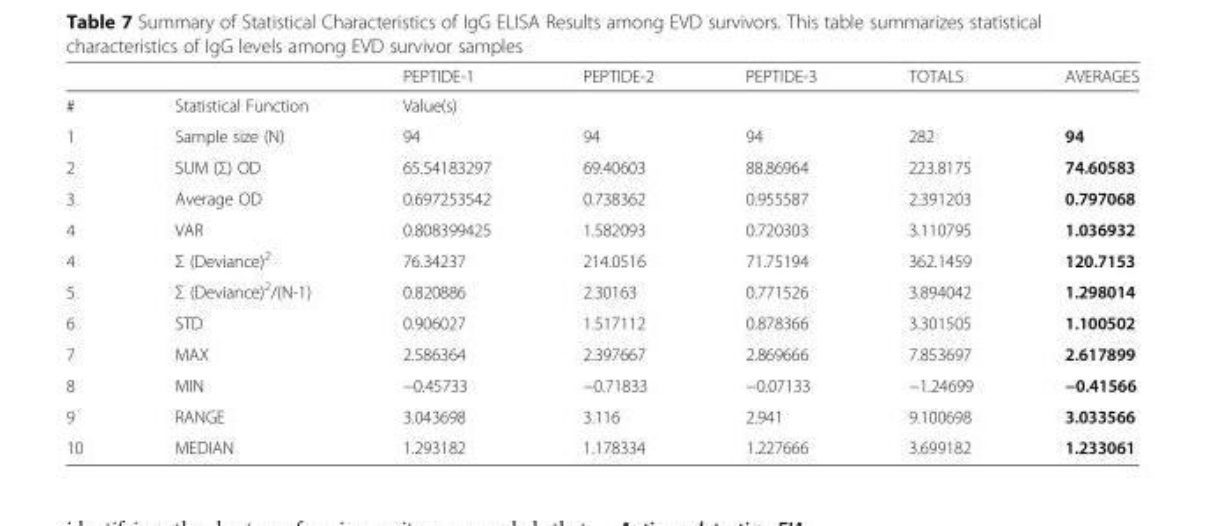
<table><thead><tr><td></td><td></td><td>PEPTIDE-1</td><td>PEPTIDE-2</td><td>PEPTIDE-3</td><td>TOTALS</td><td>AVERAGES</td></tr></thead><tbody><tr><td>#</td><td>Statistical Function</td><td colspan="5">Value(s)</td></tr><tr><td>1</td><td>Sample size (N)</td><td>94</td><td>94</td><td>94</td><td>282</td><td>94</td></tr><tr><td>2</td><td>SUM (Σ) OD</td><td>65.54183297</td><td>69.40603</td><td>88.86964</td><td>223.8175</td><td>74.60583</td></tr><tr><td>3</td><td>Average OD</td><td>0.697253542</td><td>0.738362</td><td>0.955587</td><td>2.391203</td><td>0.797068</td></tr><tr><td>4</td><td>VAR</td><td>0.808399425</td><td>1.582093</td><td>0.720303</td><td>3.110795</td><td>1.036932</td></tr><tr><td>4</td><td>Σ (Deviance)<sup>2</sup></td><td>76.34237</td><td>214.0516</td><td>71.75194</td><td>362.1459</td><td>120.7153</td></tr><tr><td>5</td><td>Σ (Deviance)<sup>2</sup>/(N-1)</td><td>0.820886</td><td>2.30163</td><td>0.771526</td><td>3.894042</td><td>1.298014</td></tr><tr><td>6</td><td>STD</td><td>0.906027</td><td>1.517112</td><td>0.878366</td><td>3.301505</td><td>1.100502</td></tr><tr><td>7</td><td>MAX</td><td>2.586364</td><td>2.397667</td><td>2.869666</td><td>7.853697</td><td>2.617899</td></tr><tr><td>8</td><td>MIN</td><td>−0.45733</td><td>−0.71833</td><td>−0.07133</td><td>−1.24699</td><td>−0.41566</td></tr><tr><td>9</td><td>RANGE</td><td>3.043698</td><td>3.116</td><td>2.941</td><td>9.100698</td><td>3.033566</td></tr><tr><td>10</td><td>MEDIAN</td><td>1.293182</td><td>1.178334</td><td>1.227666</td><td>3.699182</td><td>1.233061</td></tr></tbody></table>